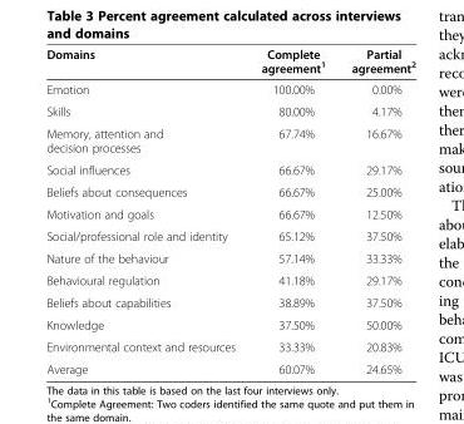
<table><thead><tr><td>Domains</td><td>Complete agreement<sup>1</sup></td><td>Partial agreement<sup>2</sup></td></tr></thead><tbody><tr><td>Emotion</td><td>100.00%</td><td>0.00%</td></tr><tr><td>Skills</td><td>80.00%</td><td>4.17%</td></tr><tr><td>Memory, attention and decision processes</td><td>67.74%</td><td>16.67%</td></tr><tr><td>Social influences</td><td>66.67%</td><td>29.17%</td></tr><tr><td>Beliefs about consequences</td><td>66.67%</td><td>25.00%</td></tr><tr><td>Motivation and goals</td><td>66.67%</td><td>12.50%</td></tr><tr><td>Social/professional role and identity</td><td>65.12%</td><td>37.50%</td></tr><tr><td>Nature of the behaviour</td><td>57.14%</td><td>33.33%</td></tr><tr><td>Behavioural regulation</td><td>41.18%</td><td>29.17%</td></tr><tr><td>Beliefs about capabilities</td><td>38.89%</td><td>37.50%</td></tr><tr><td>Knowledge</td><td>37.50%</td><td>50.00%</td></tr><tr><td>Environmental context and resources</td><td>33.33%</td><td>20.83%</td></tr><tr><td>Average</td><td>60.07%</td><td>24.65%</td></tr></tbody></table>